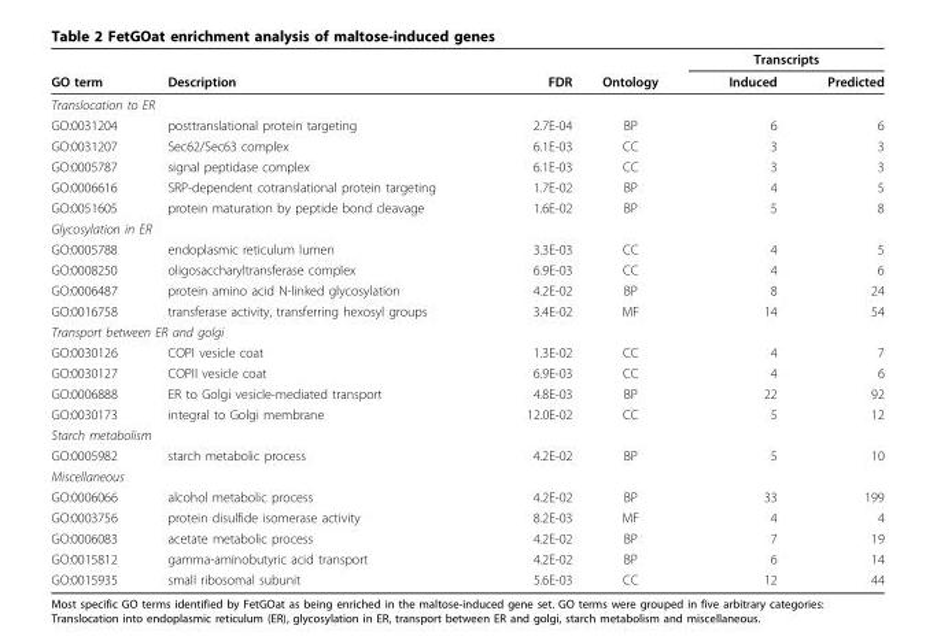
<table><thead><tr><td rowspan="2">GO term</td><td rowspan="2">Description</td><td rowspan="2">FDR</td><td rowspan="2">Ontology</td><td colspan="2">Transcripts</td></tr><tr><td>Induced</td><td>Predicted</td></tr></thead><tbody><tr><td colspan="6">Translocation to ER</td></tr><tr><td>GO:0031204</td><td>posttranslational protein targeting</td><td>2.7E-04</td><td>BP</td><td>6</td><td>6</td></tr><tr><td>GO:0031207</td><td>Sec62/Sec63 complex</td><td>6.1E-03</td><td>CC</td><td>3</td><td>3</td></tr><tr><td>GO:0005787</td><td>signal peptidase complex</td><td>6.1E-03</td><td>CC</td><td>3</td><td>3</td></tr><tr><td>GO:0006616</td><td>SRP-dependent cotranslational protein targeting</td><td>1.7E-02</td><td>BP</td><td>4</td><td>5</td></tr><tr><td>GO:0051605</td><td>protein maturation by peptide bond cleavage</td><td>1.6E-02</td><td>BP</td><td>5</td><td>8</td></tr><tr><td colspan="6">Glycosylation in ER</td></tr><tr><td>GO:0005788</td><td>endoplasmic reticulum lumen</td><td>3.3E-03</td><td>CC</td><td>4</td><td>5</td></tr><tr><td>GO:0008250</td><td>oligosaccharyltransferase complex</td><td>6.9E-03</td><td>CC</td><td>4</td><td>6</td></tr><tr><td>GO:0006487</td><td>protein amino acid N-linked glycosylation</td><td>4.2E-02</td><td>BP</td><td>8</td><td>24</td></tr><tr><td>GO:0016758</td><td>transferase activity, transferring hexosyl groups</td><td>3.4E-02</td><td>MF</td><td>14</td><td>54</td></tr><tr><td colspan="6">Transport between ER and golgi</td></tr><tr><td>GO:0030126</td><td>COPI vesicle coat</td><td>1.3E-02</td><td>CC</td><td>4</td><td>7</td></tr><tr><td>GO:0030127</td><td>COPII vesicle coat</td><td>6.9E-03</td><td>CC</td><td>4</td><td>6</td></tr><tr><td>GO:0006888</td><td>ER to Golgi vesicle-mediated transport</td><td>4.8E-03</td><td>BP</td><td>22</td><td>92</td></tr><tr><td>GO:0030173</td><td>integral to Golgi membrane</td><td>12.0E-02</td><td>CC</td><td>5</td><td>12</td></tr><tr><td colspan="6">Starch metabolism</td></tr><tr><td>GO:0005982</td><td>starch metabolic process</td><td>4.2E-02</td><td>BP</td><td>5</td><td>10</td></tr><tr><td colspan="6">Miscellaneous</td></tr><tr><td>GO:0006066</td><td>alcohol metabolic process</td><td>4.2E-02</td><td>BP</td><td>33</td><td>199</td></tr><tr><td>GO:0003756</td><td>protein disulfide isomerase activity</td><td>8.2E-03</td><td>MF</td><td>4</td><td>4</td></tr><tr><td>GO:0006083</td><td>acetate metabolic process</td><td>4.2E-02</td><td>BP</td><td>7</td><td>19</td></tr><tr><td>GO:0015812</td><td>gamma-aminobutyric acid transport</td><td>4.2E-02</td><td>BP</td><td>6</td><td>14</td></tr><tr><td>GO:0015935</td><td>small ribosomal subunit</td><td>5.6E-03</td><td>CC</td><td>12</td><td>44</td></tr></tbody></table>